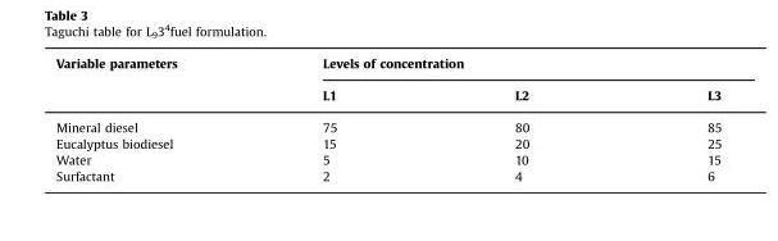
<table><thead><tr><td rowspan="2">Variable parameters</td><td colspan="3">Levels of concentration</td></tr><tr><td>L1</td><td>L2</td><td>L3</td></tr></thead><tbody><tr><td>Mineral diesel</td><td>75</td><td>80</td><td>85</td></tr><tr><td>Eucalyptus biodiesel</td><td>15</td><td>20</td><td>25</td></tr><tr><td>Water</td><td>5</td><td>10</td><td>15</td></tr><tr><td>Surfactant</td><td>2</td><td>4</td><td>6</td></tr></tbody></table>